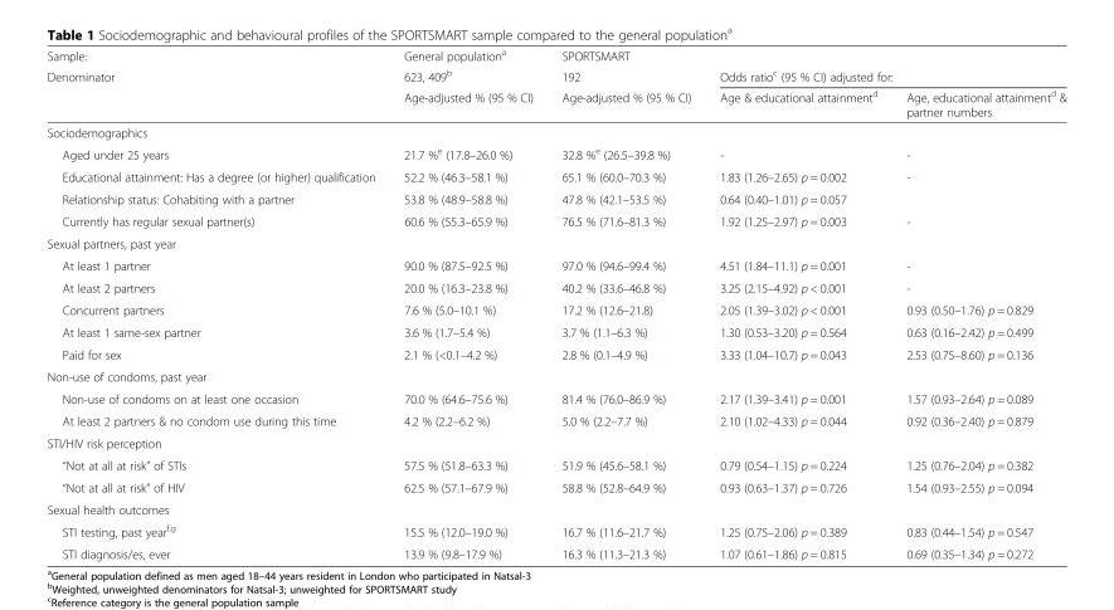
<table><thead><tr><td rowspan="3">Sample: Denominator</td><td rowspan="3">General population<sup>a</sup> 623, 409<sup>b</sup> Age-adjusted % (95 % CI)</td><td rowspan="3">SPORTSMART 192 Age-adjusted % (95 % CI)</td><td></td><td></td></tr><tr><td colspan="2">Odds ratio<sup>c</sup> (95 % CI) adjusted for:</td></tr><tr><td>Age &amp; educational attainment<sup>d</sup></td><td>Age, educational attainment<sup>d</sup> &amp; partner numbers</td></tr></thead><tbody><tr><td colspan="5">Sociodemographics</td></tr><tr><td>Aged under 25 years</td><td>21.7 %<sup>e</sup> (17.8–26.0 %)</td><td>32.8 %<sup>e</sup> (26.5–39.8 %)</td><td>-</td><td>-</td></tr><tr><td>Educational attainment: Has a degree (or higher) qualification</td><td>52.2 % (46.3–58.1 %)</td><td>65.1 % (60.0–70.3 %)</td><td>1.83 (1.26–2.65) p = 0.002</td><td>-</td></tr><tr><td>Relationship status: Cohabiting with a partner</td><td>53.8 % (48.9–58.8 %)</td><td>47.8 % (42.1–53.5 %)</td><td>0.64 (0.40–1.01) p = 0.057</td><td></td></tr><tr><td>Currently has regular sexual partner(s)</td><td>60.6 % (55.3–65.9 %)</td><td>76.5 % (71.6–81.3 %)</td><td>1.92 (1.25–2.97) p = 0.003</td><td>-</td></tr><tr><td colspan="5">Sexual partners, past year</td></tr><tr><td>At least 1 partner</td><td>90.0 % (87.5–92.5 %)</td><td>97.0 % (94.6–99.4 %)</td><td>4.51 (1.84–11.1) p = 0.001</td><td>-</td></tr><tr><td>At least 2 partners</td><td>20.0 % (16.3–23.8 %)</td><td>40.2 % (33.6–46.8 %)</td><td>3.25 (2.15–4.92) p &lt; 0.001</td><td>-</td></tr><tr><td>Concurrent partners</td><td>7.6 % (5.0–10.1 %)</td><td>17.2 % (12.6–21.8)</td><td>2.05 (1.39–3.02) p &lt; 0.001</td><td>0.93 (0.50–1.76) p = 0.829</td></tr><tr><td>At least 1 same-sex partner</td><td>3.6 % (1.7–5.4 %)</td><td>3.7 % (1.1–6.3 %)</td><td>1.30 (0.53–3.20) p = 0.564</td><td>0.63 (0.16–2.42) p = 0.499</td></tr><tr><td>Paid for sex</td><td>2.1 % (&lt;0.1–4.2 %)</td><td>2.8 % (0.1–4.9 %)</td><td>3.33 (1.04–10.7) p = 0.043</td><td>2.53 (0.75–8.60) p = 0.136</td></tr><tr><td colspan="5">Non-use of condoms, past year</td></tr><tr><td>Non-use of condoms on at least one occasion</td><td>70.0 % (64.6–75.6 %)</td><td>81.4 % (76.0–86.9 %)</td><td>2.17 (1.39–3.41) p = 0.001</td><td>1.57 (0.93–2.64) p = 0.089</td></tr><tr><td>At least 2 partners &amp; no condom use during this time</td><td>4.2 % (2.2–6.2 %)</td><td>5.0 % (2.2–7.7 %)</td><td>2.10 (1.02–4.33) p = 0.044</td><td>0.92 (0.36–2.40) p = 0.879</td></tr><tr><td colspan="5">STI/HIV risk perception</td></tr><tr><td>“Not at all at risk” of STIs</td><td>57.5 % (51.8–63.3 %)</td><td>51.9 % (45.6–58.1 %)</td><td>0.79 (0.54–1.15) p = 0.224</td><td>1.25 (0.76–2.04) p = 0.382</td></tr><tr><td>“Not at all at risk” of HIV</td><td>62.5 % (57.1–67.9 %)</td><td>58.8 % (52.8–64.9 %)</td><td>0.93 (0.63–1.37) p = 0.726</td><td>1.54 (0.93–2.55) p = 0.094</td></tr><tr><td colspan="5">Sexual health outcomes</td></tr><tr><td>STI testing, past year<sup>f,g</sup></td><td>15.5 % (12.0–19.0 %)</td><td>16.7 % (11.6–21.7 %)</td><td>1.25 (0.75–2.06) p = 0.389</td><td>0.83 (0.44–1.54) p = 0.547</td></tr><tr><td>STI diagnosis/es, ever</td><td>13.9 % (9.8–17.9 %)</td><td>16.3 % (11.3–21.3 %)</td><td>1.07 (0.61–1.86) p = 0.815</td><td>0.69 (0.35–1.34) p = 0.272</td></tr></tbody></table>